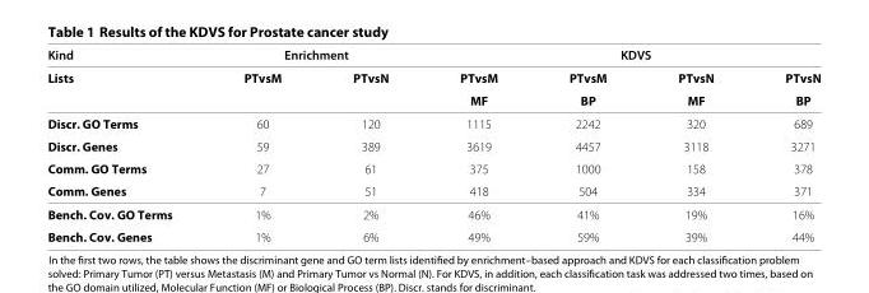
<table><thead><tr><td rowspan="2">Kind Lists</td><td colspan="2">Enrichment</td><td colspan="4">KDVS</td></tr><tr><td>PTvsM</td><td>PTvsN</td><td>PTvsM</td><td>PTvsM</td><td>PTvsN</td><td>PTvsN</td></tr></thead><tbody><tr><td></td><td></td><td></td><td>MF</td><td>BP</td><td>MF</td><td>BP</td></tr><tr><td>Discr. GO Terms</td><td>60</td><td>120</td><td>1115</td><td>2242</td><td>320</td><td>689</td></tr><tr><td>Discr. Genes</td><td>59</td><td>389</td><td>3619</td><td>4457</td><td>3118</td><td>3271</td></tr><tr><td>Comm. GO Terms</td><td>27</td><td>61</td><td>375</td><td>1000</td><td>158</td><td>378</td></tr><tr><td>Comm. Genes</td><td>7</td><td>51</td><td>418</td><td>504</td><td>334</td><td>371</td></tr><tr><td>Bench. Cov. GO Terms</td><td>1%</td><td>2%</td><td>46%</td><td>41%</td><td>19%</td><td>16%</td></tr><tr><td>Bench. Cov. Genes</td><td>1%</td><td>6%</td><td>49%</td><td>59%</td><td>39%</td><td>44%</td></tr></tbody></table>